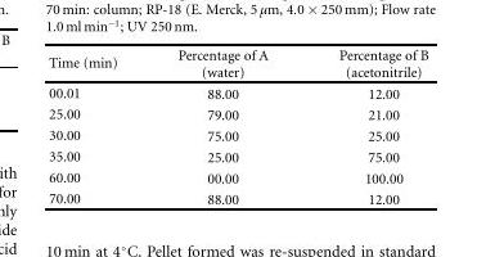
<table><thead><tr><td>Time (min)</td><td>Percentage of A (water)</td><td>Percentage of B (acetonitrile)</td></tr></thead><tbody><tr><td>00.01</td><td>88.00</td><td>12.00</td></tr><tr><td>25.00</td><td>79.00</td><td>21.00</td></tr><tr><td>30.00</td><td>75.00</td><td>25.00</td></tr><tr><td>35.00</td><td>25.00</td><td>75.00</td></tr><tr><td>60.00</td><td>00.00</td><td>100.00</td></tr><tr><td>70.00</td><td>88.00</td><td>12.00</td></tr></tbody></table>